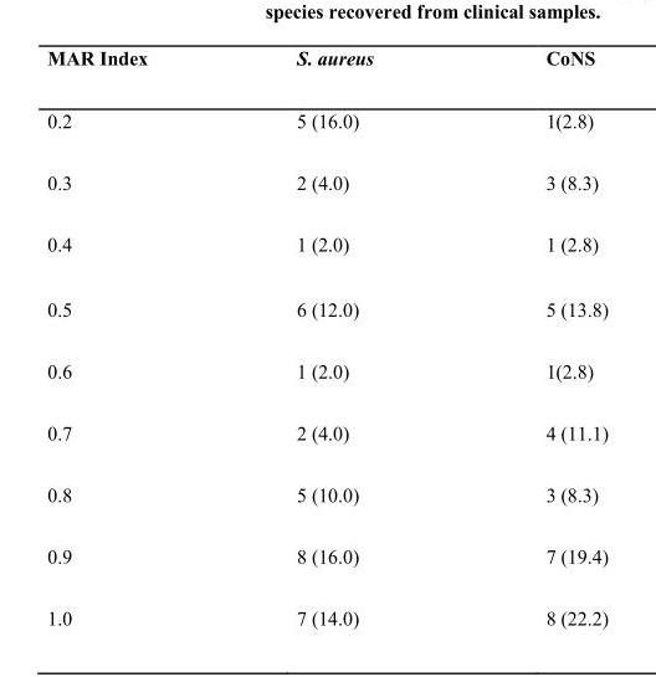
<table><thead><tr><td>MAR Index</td><td>S. aureus</td><td>CoNS</td></tr></thead><tbody><tr><td>0.2</td><td>5 (16.0)</td><td>1(2.8)</td></tr><tr><td>0.3</td><td>2 (4.0)</td><td>3 (8.3)</td></tr><tr><td>0.4</td><td>1 (2.0)</td><td>1 (2.8)</td></tr><tr><td>0.5</td><td>6 (12.0)</td><td>5 (13.8)</td></tr><tr><td>0.6</td><td>1 (2.0)</td><td>1(2.8)</td></tr><tr><td>0.7</td><td>2 (4.0)</td><td>4 (11.1)</td></tr><tr><td>0.8</td><td>5 (10.0)</td><td>3 (8.3)</td></tr><tr><td>0.9</td><td>8 (16.0)</td><td>7 (19.4)</td></tr><tr><td>1.0</td><td>7 (14.0)</td><td>8 (22.2)</td></tr></tbody></table>